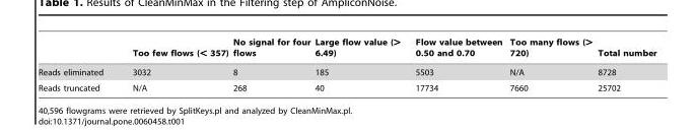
<table><thead><tr><td></td><td>Too few flows (&lt; 357)</td><td>No signal for four flows</td><td>Large flow value (&gt; 6.49)</td><td>Flow value between 0.50 and 0.70</td><td>Too many flows (&gt; 720)</td><td>Total number</td></tr></thead><tbody><tr><td>Reads eliminated</td><td>3032</td><td>8</td><td>185</td><td>5503</td><td>N/A</td><td>8728</td></tr><tr><td>Reads truncated</td><td>N/A</td><td>268</td><td>40</td><td>17734</td><td>7660</td><td>25702</td></tr></tbody></table>